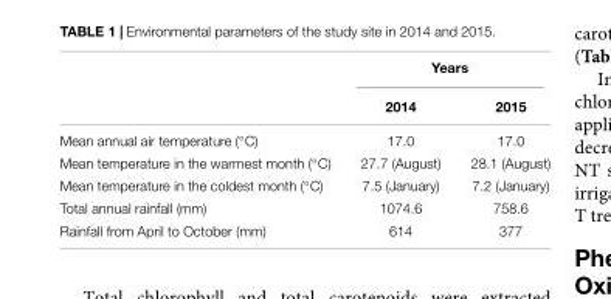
<table><thead><tr><td rowspan="2"></td><td colspan="2">Years</td></tr><tr><td>2014</td><td>2015</td></tr></thead><tbody><tr><td>Mean annual air temperature (◦C)</td><td>17.0</td><td>17.0</td></tr><tr><td>Mean temperature in the warmest month (◦C)</td><td>27.7 (August)</td><td>28.1 (August)</td></tr><tr><td>Mean temperature in the coldest month (◦C)</td><td>7.5 (January)</td><td>7.2 (January)</td></tr><tr><td>Total annual rainfall (mm)</td><td>1074.6</td><td>758.6</td></tr><tr><td>Rainfall from April to October (mm)</td><td>614</td><td>377</td></tr></tbody></table>